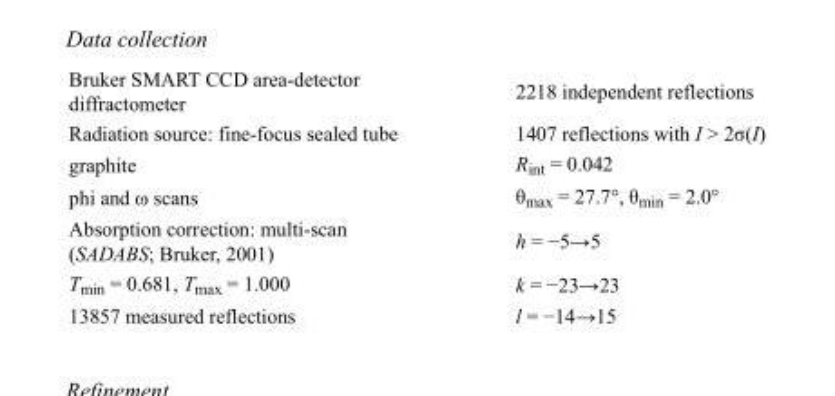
<table><tbody><tr><td>Bruker SMART CCD area-detector diffractometer</td><td>2218 independent reflections</td></tr><tr><td>Radiation source: fine-focus sealed tube</td><td>1407 reflections with I &gt; 2σ(I)</td></tr><tr><td>graphite</td><td>R<sub>int</sub> = 0.042</td></tr><tr><td>phi and ω scans</td><td>θ<sub>max</sub> = 27.7°, θ<sub>min</sub> = 2.0°</td></tr><tr><td>Absorption correction: multi-scan (SADABS; Bruker, 2001)</td><td>h = −5→5</td></tr><tr><td>T<sub>min</sub> = 0.681, T<sub>max</sub> = 1.000</td><td>k = −23→23</td></tr><tr><td>13857 measured reflections</td><td>l = −14→15</td></tr></tbody></table>